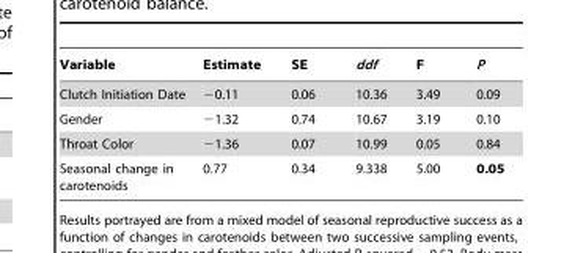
<table><thead><tr><td>Variable</td><td>Estimate</td><td>SE</td><td>ddf</td><td>F</td><td>P</td></tr></thead><tbody><tr><td>Clutch Initiation Date</td><td>−0.11</td><td>0.06</td><td>10.36</td><td>3.49</td><td>0.09</td></tr><tr><td>Gender</td><td>−1.32</td><td>0.74</td><td>10.67</td><td>3.19</td><td>0.10</td></tr><tr><td>Throat Color</td><td>−1.36</td><td>0.07</td><td>10.99</td><td>0.05</td><td>0.84</td></tr><tr><td>Seasonal change in carotenoids</td><td>0.77</td><td>0.34</td><td>9.338</td><td>5.00</td><td>0.05</td></tr></tbody></table>